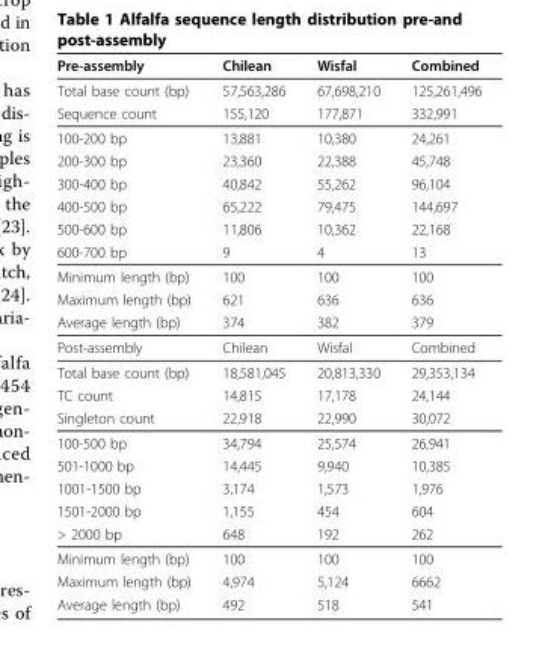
<table><thead><tr><td>Pre-assembly</td><td>Chilean</td><td>Wisfal</td><td>Combined</td></tr></thead><tbody><tr><td>Total base count (bp)</td><td>57,563,286</td><td>67,698,210</td><td>125,261,496</td></tr><tr><td>Sequence count</td><td>155,120</td><td>177,871</td><td>332,991</td></tr><tr><td>100-200 bp</td><td>13,881</td><td>10,380</td><td>24,261</td></tr><tr><td>200-300 bp</td><td>23,360</td><td>22,388</td><td>45,748</td></tr><tr><td>300-400 bp</td><td>40,842</td><td>55,262</td><td>96,104</td></tr><tr><td>400-500 bp</td><td>65,222</td><td>79,475</td><td>144,697</td></tr><tr><td>500-600 bp</td><td>11,806</td><td>10,362</td><td>22,168</td></tr><tr><td>600-700 bp</td><td>9</td><td>4</td><td>13</td></tr><tr><td>Minimum length (bp)</td><td>100</td><td>100</td><td>100</td></tr><tr><td>Maximum length (bp)</td><td>621</td><td>636</td><td>636</td></tr><tr><td>Average length (bp)</td><td>374</td><td>382</td><td>379</td></tr><tr><td>Post-assembly</td><td>Chilean</td><td>Wisfal</td><td>Combined</td></tr><tr><td>Total base count (bp)</td><td>18,581,045</td><td>20,813,330</td><td>29,353,134</td></tr><tr><td>TC count</td><td>14,815</td><td>17,178</td><td>24,144</td></tr><tr><td>Singleton count</td><td>22,918</td><td>22,990</td><td>30,072</td></tr><tr><td>100-500 bp</td><td>34,794</td><td>25,574</td><td>26,941</td></tr><tr><td>501-1000 bp</td><td>14,445</td><td>9,940</td><td>10,385</td></tr><tr><td>1001-1500 bp</td><td>3,174</td><td>1,573</td><td>1,976</td></tr><tr><td>1501-2000 bp</td><td>1,155</td><td>454</td><td>604</td></tr><tr><td>&gt; 2000 bp</td><td>648</td><td>192</td><td>262</td></tr><tr><td>Minimum length (bp)</td><td>100</td><td>100</td><td>100</td></tr><tr><td>Maximum length (bp)</td><td>4,974</td><td>5,124</td><td>6662</td></tr><tr><td>Average length (bp)</td><td>492</td><td>518</td><td>541</td></tr></tbody></table>